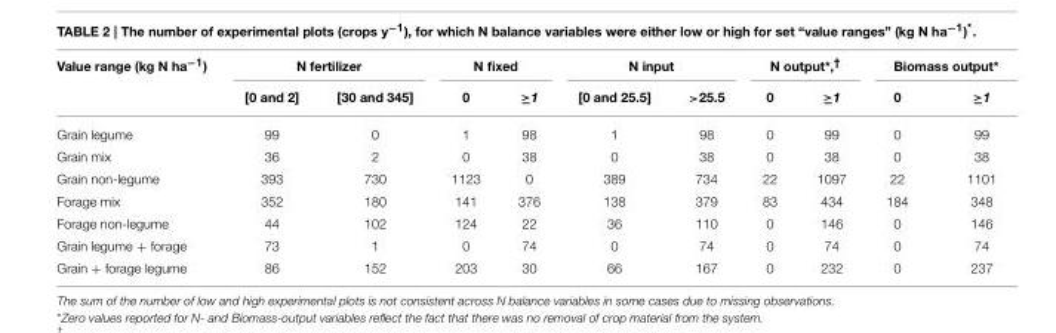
<table><thead><tr><td rowspan="2">Value range (kg N ha<sup>−1</sup>)</td><td colspan="2">N fertilizer</td><td colspan="2">N fixed</td><td colspan="2">N input</td><td colspan="2">N output*,<sup>†</sup></td><td colspan="2">Biomass output*</td></tr><tr><td>[0 and 2]</td><td>[30 and 345]</td><td>0</td><td>≥1</td><td>[0 and 25.5]</td><td>&gt;25.5</td><td>0</td><td>≥1</td><td>0</td><td>≥1</td></tr></thead><tbody><tr><td>Grain legume</td><td>99</td><td>0</td><td>1</td><td>98</td><td>1</td><td>98</td><td>0</td><td>99</td><td>0</td><td>99</td></tr><tr><td>Grain mix</td><td>36</td><td>2</td><td>0</td><td>38</td><td>0</td><td>38</td><td>0</td><td>38</td><td>0</td><td>38</td></tr><tr><td>Grain non-legume</td><td>393</td><td>730</td><td>1123</td><td>0</td><td>389</td><td>734</td><td>22</td><td>1097</td><td>22</td><td>1101</td></tr><tr><td>Forage mix</td><td>352</td><td>180</td><td>141</td><td>376</td><td>138</td><td>379</td><td>83</td><td>434</td><td>184</td><td>348</td></tr><tr><td>Forage non-legume</td><td>44</td><td>102</td><td>124</td><td>22</td><td>36</td><td>110</td><td>0</td><td>146</td><td>0</td><td>146</td></tr><tr><td>Grain legume + forage</td><td>73</td><td>1</td><td>0</td><td>74</td><td>0</td><td>74</td><td>0</td><td>74</td><td>0</td><td>74</td></tr><tr><td>Grain + forage legume</td><td>86</td><td>152</td><td>203</td><td>30</td><td>66</td><td>167</td><td>0</td><td>232</td><td>0</td><td>237</td></tr></tbody></table>